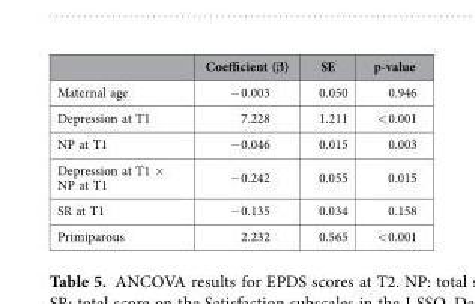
<table><thead><tr><td></td><td>Coefficient (β)</td><td>SE</td><td>p-value</td></tr></thead><tbody><tr><td>Maternal age</td><td>− 0.003</td><td>0.050</td><td>0.946</td></tr><tr><td>Depression at T1</td><td>7.228</td><td>1.211</td><td>&lt; 0.001</td></tr><tr><td>NP at T1</td><td>− 0.046</td><td>0.015</td><td>0.003</td></tr><tr><td>Depression at T1 × NP at T1</td><td>− 0.242</td><td>0.055</td><td>0.015</td></tr><tr><td>SR at T1</td><td>− 0.135</td><td>0.034</td><td>0.158</td></tr><tr><td>Primiparous</td><td>2.232</td><td>0.565</td><td>&lt; 0.001</td></tr></tbody></table>